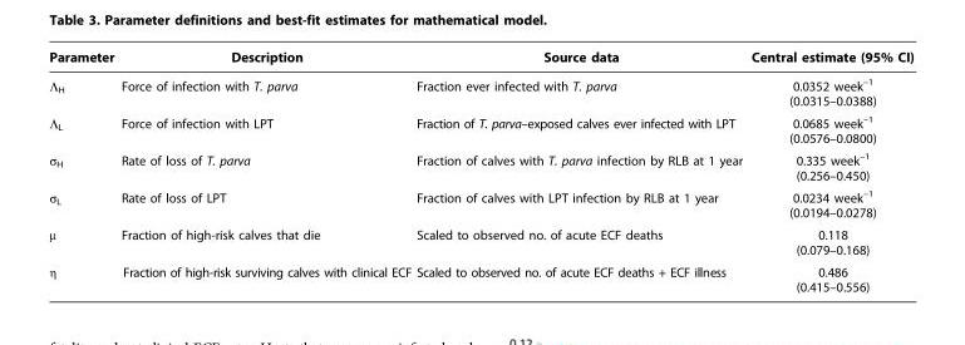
<table><thead><tr><td>Parameter</td><td>Description</td><td>Source data</td><td>Central estimate (95% CI)</td></tr></thead><tbody><tr><td>Λ<sub>H</sub></td><td>Force of infection with T. parva</td><td>Fraction ever infected with T. parva</td><td>0.0352 week<sup>–1</sup> (0.0315–0.0388)</td></tr><tr><td>Λ<sub>L</sub></td><td>Force of infection with LPT</td><td>Fraction of T. parva–exposed calves ever infected with LPT</td><td>0.0685 week<sup>–1</sup> (0.0576–0.0800)</td></tr><tr><td>σ<sub>H</sub></td><td>Rate of loss of T. parva</td><td>Fraction of calves with T. parva infection by RLB at 1 year</td><td>0.335 week<sup>–1</sup> (0.256–0.450)</td></tr><tr><td>σ<sub>L</sub></td><td>Rate of loss of LPT</td><td>Fraction of calves with LPT infection by RLB at 1 year</td><td>0.0234 week<sup>–1</sup> (0.0194–0.0278)</td></tr><tr><td>μ</td><td>Fraction of high-risk calves that die</td><td>Scaled to observed no. of acute ECF deaths</td><td>0.118 (0.079–0.168)</td></tr><tr><td>η</td><td>Fraction of high-risk surviving calves with clinical ECF</td><td>Scaled to observed no. of acute ECF deaths + ECF illness</td><td>0.486 (0.415–0.556)</td></tr></tbody></table>